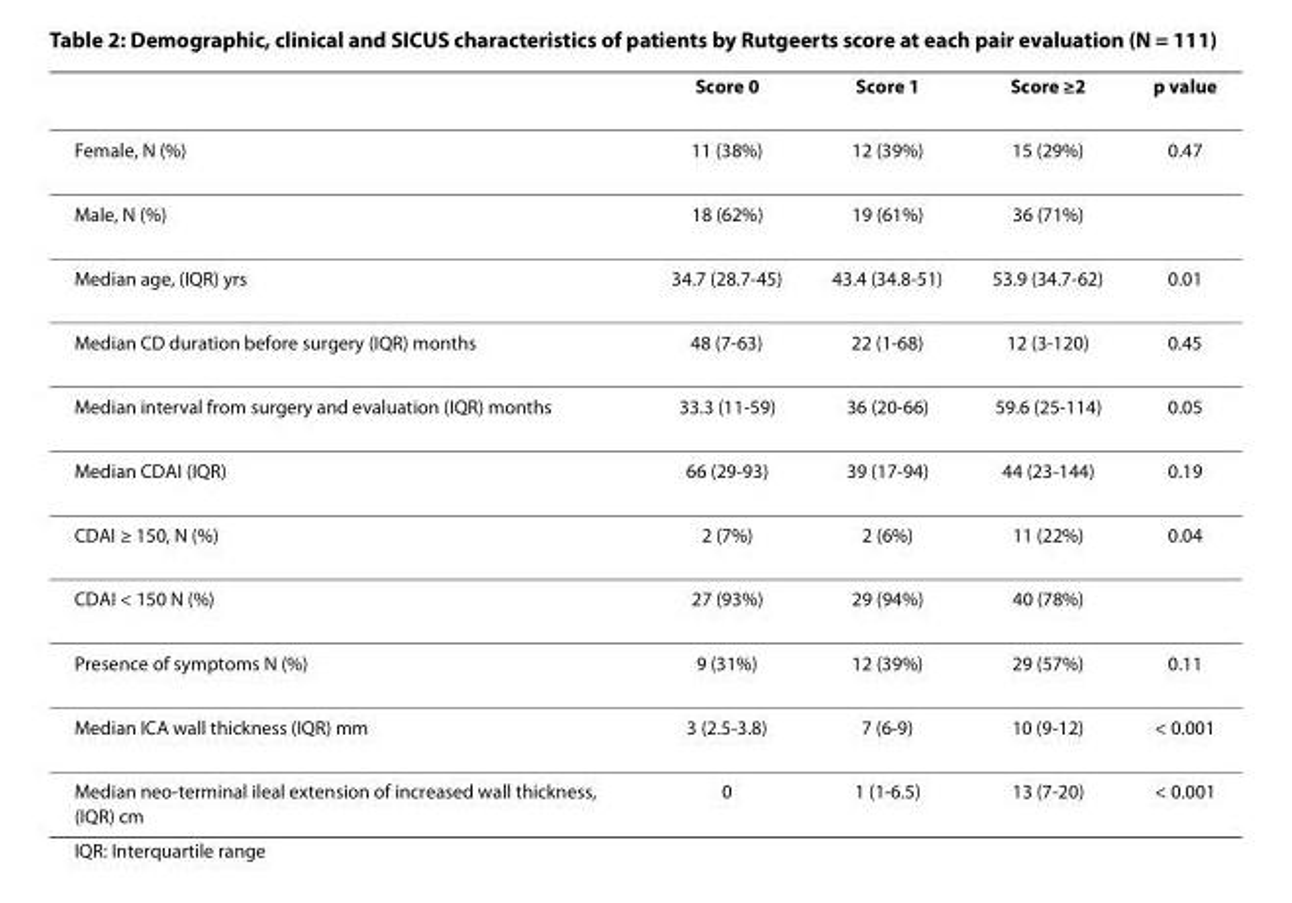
<table><thead><tr><td></td><td>Score 0</td><td>Score 1</td><td>Score ≥2</td><td>p value</td></tr></thead><tbody><tr><td>Female, N (%)</td><td>11 (38%)</td><td>12 (39%)</td><td>15 (29%)</td><td>0.47</td></tr><tr><td>Male, N (%)</td><td>18 (62%)</td><td>19 (61%)</td><td>36 (71%)</td><td></td></tr><tr><td>Median age, (IQR) yrs</td><td>34.7 (28.7-45)</td><td>43.4 (34.8-51)</td><td>53.9 (34.7-62)</td><td>0.01</td></tr><tr><td>Median CD duration before surgery (IQR) months</td><td>48 (7-63)</td><td>22 (1-68)</td><td>12 (3-120)</td><td>0.45</td></tr><tr><td>Median interval from surgery and evaluation (IQR) months</td><td>33.3 (11-59)</td><td>36 (20-66)</td><td>59.6 (25-114)</td><td>0.05</td></tr><tr><td>Median CDAI (IQR)</td><td>66 (29-93)</td><td>39 (17-94)</td><td>44 (23-144)</td><td>0.19</td></tr><tr><td>CDAI ≥ 150, N (%)</td><td>2 (7%)</td><td>2 (6%)</td><td>11 (22%)</td><td>0.04</td></tr><tr><td>CDAI &lt; 150 N (%)</td><td>27 (93%)</td><td>29 (94%)</td><td>40 (78%)</td><td></td></tr><tr><td>Presence of symptoms N (%)</td><td>9 (31%)</td><td>12 (39%)</td><td>29 (57%)</td><td>0.11</td></tr><tr><td>Median ICA wall thickness (IQR) mm</td><td>3 (2.5-3.8)</td><td>7 (6-9)</td><td>10 (9-12)</td><td>&lt; 0.001</td></tr><tr><td>Median neo-terminal ileal extension of increased wall thickness, (IQR) cm</td><td>0</td><td>1 (1-6.5)</td><td>13 (7-20)</td><td>&lt; 0.001</td></tr></tbody></table>